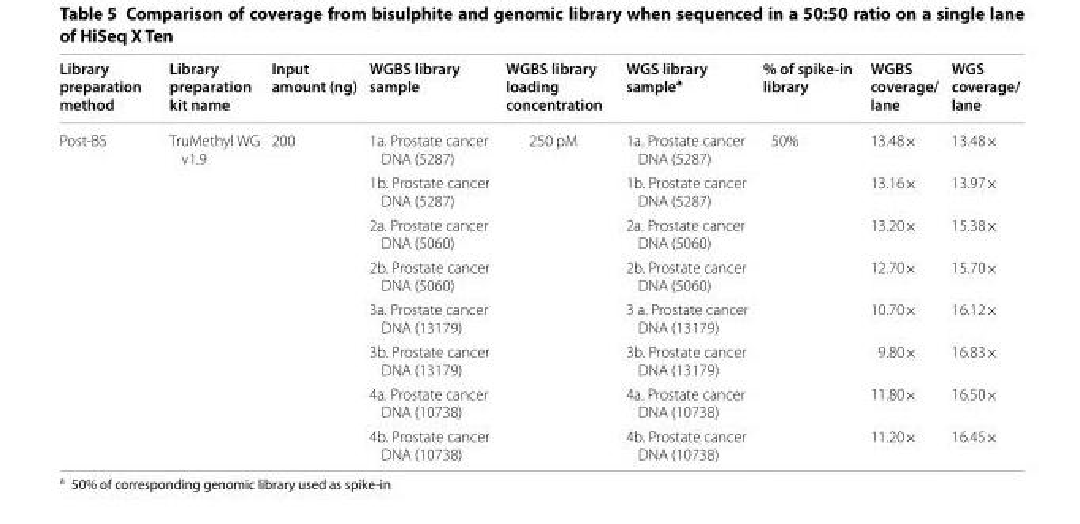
<table><thead><tr><td>Library preparation method</td><td>Library preparation kit name</td><td>Input amount (ng)</td><td>WGBS library sample</td><td>WGBS library loading concentration</td><td>WGS library sample<sup>a</sup></td><td>% of spike‑in library</td><td>WGBS coverage/ lane</td><td>WGS coverage/ lane</td></tr></thead><tbody><tr><td rowspan="8">Post‑BS</td><td rowspan="8">TruMethyl WG v1.9</td><td rowspan="8">200</td><td>1a. Prostate cancer DNA (5287)</td><td rowspan="8">250 pM</td><td>1a. Prostate cancer DNA (5287)</td><td rowspan="8">50%</td><td>13.48×</td><td>13.48×</td></tr><tr><td>1b. Prostate cancer DNA (5287)</td><td>1b. Prostate cancer DNA (5287)</td><td>13.16×</td><td>13.97×</td></tr><tr><td>2a. Prostate cancer DNA (5060)</td><td>2a. Prostate cancer DNA (5060)</td><td>13.20×</td><td>15.38×</td></tr><tr><td>2b. Prostate cancer DNA (5060)</td><td>2b. Prostate cancer DNA (5060)</td><td>12.70×</td><td>15.70×</td></tr><tr><td>3a. Prostate cancer DNA (13179)</td><td>3 a. Prostate cancer DNA (13179)</td><td>10.70×</td><td>16.12×</td></tr><tr><td>3b. Prostate cancer DNA (13179)</td><td>3b. Prostate cancer DNA (13179)</td><td>9.80×</td><td>16.83×</td></tr><tr><td>4a. Prostate cancer DNA (10738)</td><td>4a. Prostate cancer DNA (10738)</td><td>11.80×</td><td>16.50×</td></tr><tr><td>4b. Prostate cancer DNA (10738)</td><td>4b. Prostate cancer DNA (10738)</td><td>11.20×</td><td>16.45×</td></tr></tbody></table>